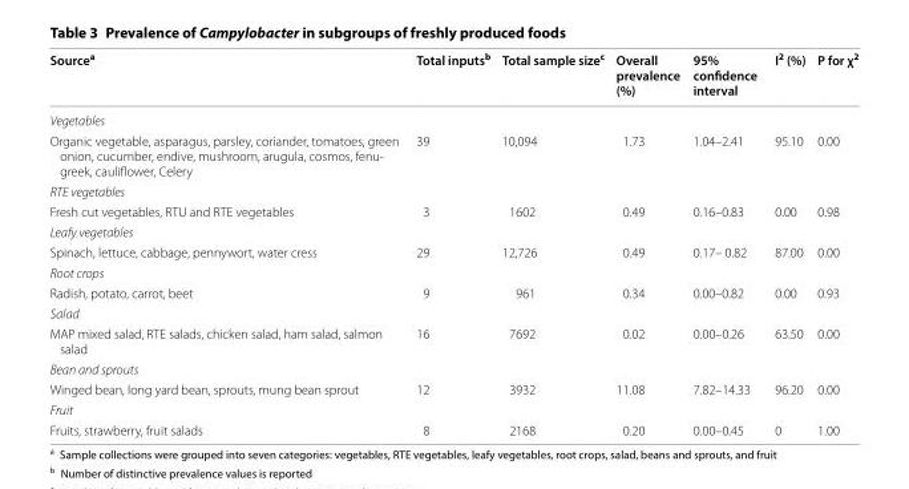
<table><thead><tr><td>Source<sup>a</sup></td><td>Total inputs<sup>b</sup></td><td>Total sample size<sup>c</sup></td><td>Overall prevalence (%)</td><td>95% confidence interval</td><td>I<sup>2</sup> (%)</td><td>P for χ<sup>2</sup></td></tr></thead><tbody><tr><td colspan="7">Vegetables</td></tr><tr><td>Organic vegetable, asparagus, parsley, coriander, tomatoes, green onion, cucumber, endive, mushroom, arugula, cosmos, fenu- greek, cauliflower, Celery</td><td>39</td><td>10,094</td><td>1.73</td><td>1.04–2.41</td><td>95.10</td><td>0.00</td></tr><tr><td colspan="7">RTE vegetables</td></tr><tr><td>Fresh cut vegetables, RTU and RTE vegetables</td><td>3</td><td>1602</td><td>0.49</td><td>0.16–0.83</td><td>0.00</td><td>0.98</td></tr><tr><td colspan="7">Leafy vegetables</td></tr><tr><td>Spinach, lettuce, cabbage, pennywort, water cress</td><td>29</td><td>12,726</td><td>0.49</td><td>0.17– 0.82</td><td>87.00</td><td>0.00</td></tr><tr><td colspan="7">Root crops</td></tr><tr><td>Radish, potato, carrot, beet</td><td>9</td><td>961</td><td>0.34</td><td>0.00–0.82</td><td>0.00</td><td>0.93</td></tr><tr><td colspan="7">Salad</td></tr><tr><td>MAP mixed salad, RTE salads, chicken salad, ham salad, salmon salad</td><td>16</td><td>7692</td><td>0.02</td><td>0.00–0.26</td><td>63.50</td><td>0.00</td></tr><tr><td colspan="7">Bean and sprouts</td></tr><tr><td>Winged bean, long yard bean, sprouts, mung bean sprout</td><td>12</td><td>3932</td><td>11.08</td><td>7.82–14.33</td><td>96.20</td><td>0.00</td></tr><tr><td colspan="7">Fruit</td></tr><tr><td>Fruits, strawberry, fruit salads</td><td>8</td><td>2168</td><td>0.20</td><td>0.00–0.45</td><td>0</td><td>1.00</td></tr></tbody></table>